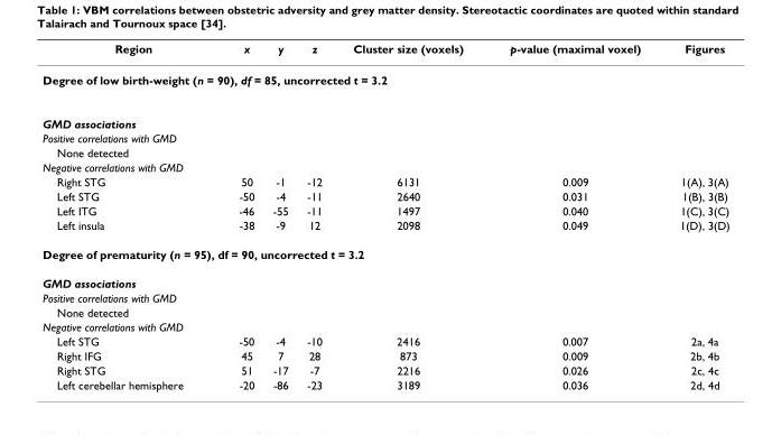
<table><thead><tr><td>Region</td><td>x</td><td>y</td><td>z</td><td>Cluster size (voxels)</td><td>p-value (maximal voxel)</td><td>Figures</td></tr></thead><tbody><tr><td colspan="7">Degree of low birth-weight (n = 90), df = 85, uncorrected t = 3.2</td></tr><tr><td colspan="7">GMD associations</td></tr><tr><td colspan="7">Positive correlations with GMD</td></tr><tr><td colspan="7">None detected</td></tr><tr><td colspan="7">Negative correlations with GMD</td></tr><tr><td>Right STG</td><td>50</td><td>-1</td><td>-12</td><td>6131</td><td>0.009</td><td>1(A), 3(A)</td></tr><tr><td>Left STG</td><td>-50</td><td>-4</td><td>-11</td><td>2640</td><td>0.031</td><td>1(B), 3(B)</td></tr><tr><td>Left ITG</td><td>-46</td><td>-55</td><td>-11</td><td>1497</td><td>0.040</td><td>1(C), 3(C)</td></tr><tr><td>Left insula</td><td>-38</td><td>-9</td><td>12</td><td>2098</td><td>0.049</td><td>1(D), 3(D)</td></tr><tr><td colspan="7">Degree of prematurity (n = 95), df = 90, uncorrected t = 3.2</td></tr><tr><td colspan="7">GMD associations</td></tr><tr><td colspan="7">Positive correlations with GMD</td></tr><tr><td colspan="7">None detected</td></tr><tr><td colspan="7">Negative correlations with GMD</td></tr><tr><td>Left STG</td><td>-50</td><td>-4</td><td>-10</td><td>2416</td><td>0.007</td><td>2a, 4a</td></tr><tr><td>Right IFG</td><td>45</td><td>7</td><td>28</td><td>873</td><td>0.009</td><td>2b, 4b</td></tr><tr><td>Right STG</td><td>51</td><td>-17</td><td>-7</td><td>2216</td><td>0.026</td><td>2c, 4c</td></tr><tr><td>Left cerebellar hemisphere</td><td>-20</td><td>-86</td><td>-23</td><td>3189</td><td>0.036</td><td>2d, 4d</td></tr></tbody></table>